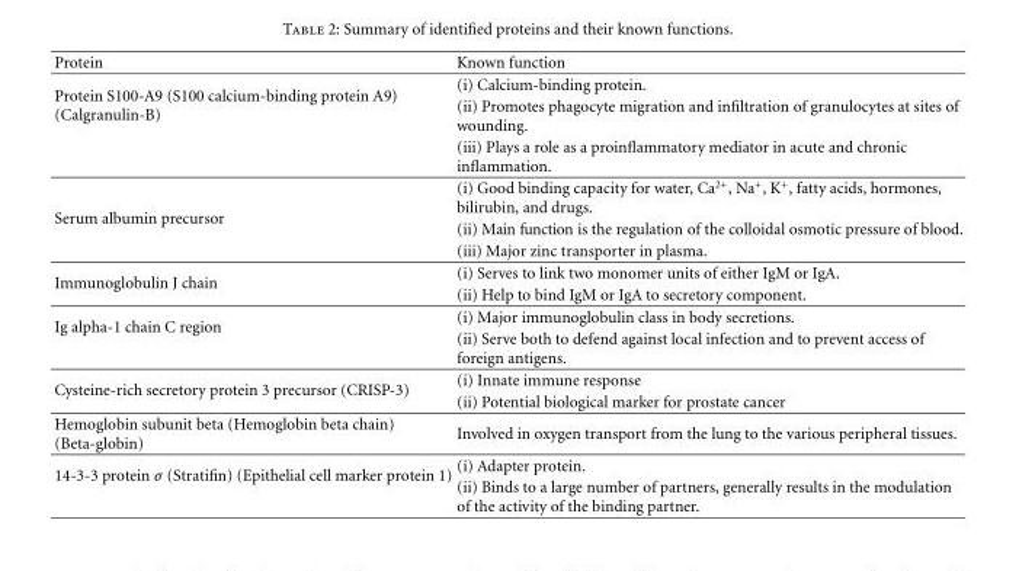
<table><thead><tr><td>Protein</td><td>Known function</td></tr></thead><tbody><tr><td rowspan="3">Protein S100-A9 (S100 calcium-binding protein A9) (Calgranulin-B)</td><td>(i) Calcium-binding protein.</td></tr><tr><td>(ii) Promotes phagocyte migration and infiltration of granulocytes at sites of wounding.</td></tr><tr><td>(iii) Plays a role as a proinflammatory mediator in acute and chronic inflammation.</td></tr><tr><td rowspan="3">Serum albumin precursor</td><td>(i) Good binding capacity for water, Ca2+, Na+, K+, fatty acids, hormones, bilirubin, and drugs.</td></tr><tr><td>(ii) Main function is the regulation of the colloidal osmotic pressure of blood.</td></tr><tr><td>(iii) Major zinc transporter in plasma.</td></tr><tr><td rowspan="2">Immunoglobulin J chain</td><td>(i) Serves to link two monomer units of either IgM or IgA.</td></tr><tr><td>(ii) Help to bind IgM or IgA to secretory component.</td></tr><tr><td rowspan="2">Ig alpha-1 chain C region</td><td>(i) Major immunoglobulin class in body secretions.</td></tr><tr><td>(ii) Serve both to defend against local infection and to prevent access of foreign antigens.</td></tr><tr><td rowspan="2">Cysteine-rich secretory protein 3 precursor (CRISP-3)</td><td>(i) Innate immune response</td></tr><tr><td>(ii) Potential biological marker for prostate cancer</td></tr><tr><td>Hemoglobin subunit beta (Hemoglobin beta chain) (Beta-globin)</td><td>Involved in oxygen transport from the lung to the various peripheral tissues.</td></tr><tr><td rowspan="2">14-3-3 protein σ (Stratifin) (Epithelial cell marker protein 1)</td><td>(i) Adapter protein.</td></tr><tr><td>(ii) Binds to a large number of partners, generally results in the modulation of the activity of the binding partner.</td></tr></tbody></table>